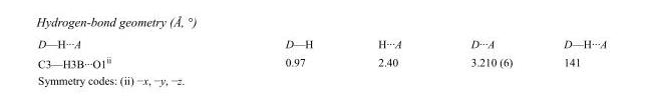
<table><tbody><tr><td>D—H···A</td><td>D—H</td><td>H···A</td><td>D···A</td><td>D—H···A</td></tr><tr><td>C3—H3B···O1<sup>ii</sup></td><td>0.97</td><td>2.40</td><td>3.210 (6)</td><td>141</td></tr></tbody></table>